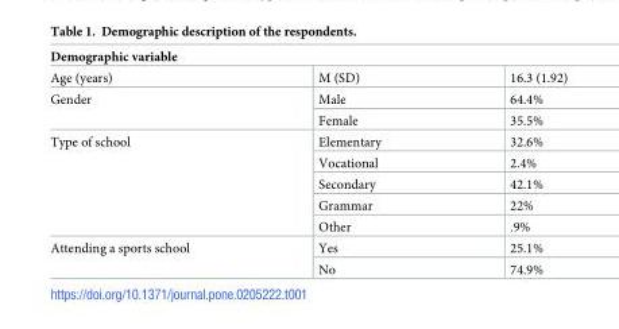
<table><thead><tr><td colspan="3">Demographic variable</td></tr><tr><td>Age (years)</td><td>M (SD)</td><td>16.3 (1.92)</td></tr></thead><tbody><tr><td rowspan="2">Gender</td><td>Male</td><td>64.4%</td></tr><tr><td>Female</td><td>35.5%</td></tr><tr><td rowspan="5">Type of school</td><td>Elementary</td><td>32.6%</td></tr><tr><td>Vocational</td><td>2.4%</td></tr><tr><td>Secondary</td><td>42.1%</td></tr><tr><td>Grammar</td><td>22%</td></tr><tr><td>Other</td><td>.9%</td></tr><tr><td rowspan="2">Attending a sports school</td><td>Yes</td><td>25.1%</td></tr><tr><td>No</td><td>74.9%</td></tr></tbody></table>